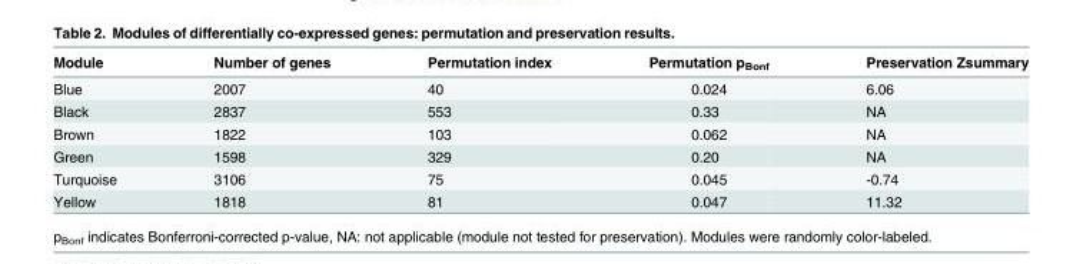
<table><thead><tr><td>Module</td><td>Number of genes</td><td>Permutation index</td><td>Permutation p<sub>Bonf</sub></td><td>Preservation Zsummary</td></tr></thead><tbody><tr><td>Blue</td><td>2007</td><td>40</td><td>0.024</td><td>6.06</td></tr><tr><td>Black</td><td>2837</td><td>553</td><td>0.33</td><td>NA</td></tr><tr><td>Brown</td><td>1822</td><td>103</td><td>0.062</td><td>NA</td></tr><tr><td>Green</td><td>1598</td><td>329</td><td>0.20</td><td>NA</td></tr><tr><td>Turquoise</td><td>3106</td><td>75</td><td>0.045</td><td>-0.74</td></tr><tr><td>Yellow</td><td>1818</td><td>81</td><td>0.047</td><td>11.32</td></tr></tbody></table>